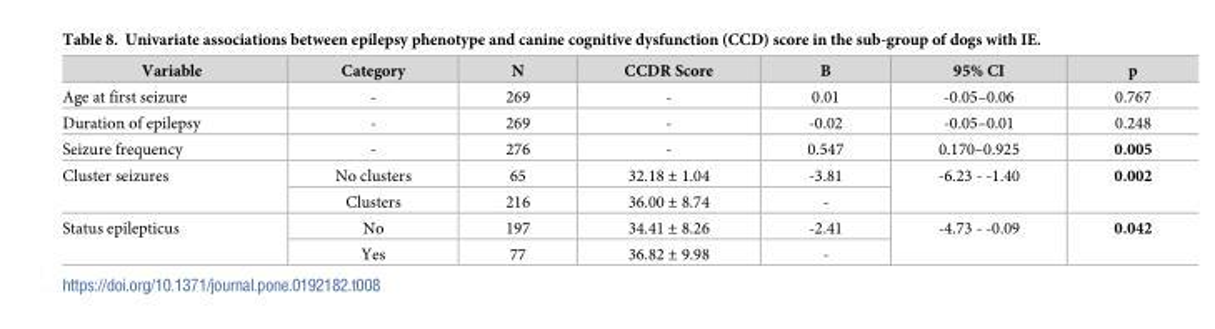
<table><thead><tr><td>Variable</td><td>Category</td><td>N</td><td>CCDR Score</td><td>B</td><td>95% CI</td><td>p</td></tr></thead><tbody><tr><td>Age at first seizure</td><td>-</td><td>269</td><td>-</td><td>0.01</td><td>-0.05–0.06</td><td>0.767</td></tr><tr><td>Duration of epilepsy</td><td>-</td><td>269</td><td>-</td><td>-0.02</td><td>-0.05–0.01</td><td>0.248</td></tr><tr><td>Seizure frequency</td><td>-</td><td>276</td><td>-</td><td>0.547</td><td>0.170–0.925</td><td>0.005</td></tr><tr><td rowspan="2">Cluster seizures</td><td>No clusters</td><td>65</td><td>32.18 ± 1.04</td><td>-3.81</td><td rowspan="2">-6.23 - -1.40</td><td rowspan="2">0.002</td></tr><tr><td>Clusters</td><td>216</td><td>36.00 ± 8.74</td><td>-</td></tr><tr><td rowspan="2">Status epilepticus</td><td>No</td><td>197</td><td>34.41 ± 8.26</td><td>-2.41</td><td rowspan="2">-4.73 - -0.09</td><td rowspan="2">0.042</td></tr><tr><td>Yes</td><td>77</td><td>36.82 ± 9.98</td><td>-</td></tr></tbody></table>